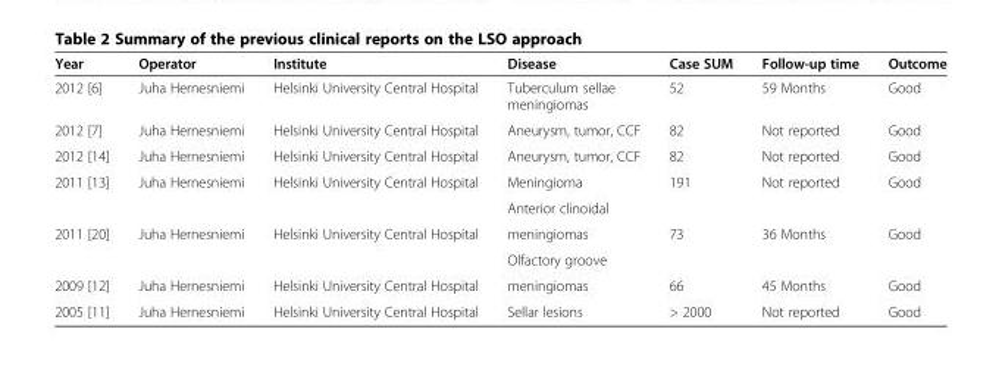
<table><thead><tr><td>Year</td><td>Operator</td><td>Institute</td><td>Disease</td><td>Case SUM</td><td>Follow-up time</td><td>Outcome</td></tr></thead><tbody><tr><td>2012 [6]</td><td>Juha Hernesniemi</td><td>Helsinki University Central Hospital</td><td>Tuberculum sellae meningiomas</td><td>52</td><td>59 Months</td><td>Good</td></tr><tr><td>2012 [7]</td><td>Juha Hernesniemi</td><td>Helsinki University Central Hospital</td><td>Aneurysm, tumor, CCF</td><td>82</td><td>Not reported</td><td>Good</td></tr><tr><td>2012 [14]</td><td>Juha Hernesniemi</td><td>Helsinki University Central Hospital</td><td>Aneurysm, tumor, CCF</td><td>82</td><td>Not reported</td><td>Good</td></tr><tr><td rowspan="2">2011 [13]</td><td>Juha Hernesniemi</td><td>Helsinki University Central Hospital</td><td>Meningioma</td><td>191</td><td>Not reported</td><td>Good</td></tr><tr><td></td><td></td><td>Anterior clinoidal</td><td></td><td></td><td></td></tr><tr><td rowspan="2">2011 [20]</td><td>Juha Hernesniemi</td><td>Helsinki University Central Hospital</td><td>meningiomas</td><td>73</td><td>36 Months</td><td>Good</td></tr><tr><td></td><td></td><td>Olfactory groove</td><td></td><td></td><td></td></tr><tr><td>2009 [12]</td><td>Juha Hernesniemi</td><td>Helsinki University Central Hospital</td><td>meningiomas</td><td>66</td><td>45 Months</td><td>Good</td></tr><tr><td>2005 [11]</td><td>Juha Hernesniemi</td><td>Helsinki University Central Hospital</td><td>Sellar lesions</td><td>&gt; 2000</td><td>Not reported</td><td>Good</td></tr></tbody></table>